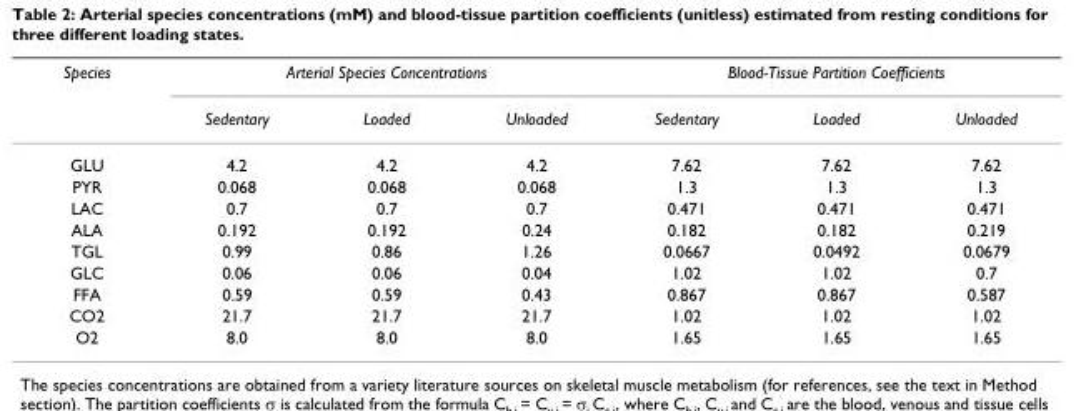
<table><thead><tr><td rowspan="2">Species</td><td colspan="3">Arterial Species Concentrations</td><td colspan="3">Blood-Tissue Partition Coefficients</td></tr><tr><td>Sedentary</td><td>Loaded</td><td>Unloaded</td><td>Sedentary</td><td>Loaded</td><td>Unloaded</td></tr></thead><tbody><tr><td>GLU</td><td>4.2</td><td>4.2</td><td>4.2</td><td>7.62</td><td>7.62</td><td>7.62</td></tr><tr><td>PYR</td><td>0.068</td><td>0.068</td><td>0.068</td><td>1.3</td><td>1.3</td><td>1.3</td></tr><tr><td>LAC</td><td>0.7</td><td>0.7</td><td>0.7</td><td>0.471</td><td>0.471</td><td>0.471</td></tr><tr><td>ALA</td><td>0.192</td><td>0.192</td><td>0.24</td><td>0.182</td><td>0.182</td><td>0.219</td></tr><tr><td>TGL</td><td>0.99</td><td>0.86</td><td>1.26</td><td>0.0667</td><td>0.0492</td><td>0.0679</td></tr><tr><td>GLC</td><td>0.06</td><td>0.06</td><td>0.04</td><td>1.02</td><td>1.02</td><td>0.7</td></tr><tr><td>FFA</td><td>0.59</td><td>0.59</td><td>0.43</td><td>0.867</td><td>0.867</td><td>0.587</td></tr><tr><td>CO2</td><td>21.7</td><td>21.7</td><td>21.7</td><td>1.02</td><td>1.02</td><td>1.02</td></tr><tr><td>O2</td><td>8.0</td><td>8.0</td><td>8.0</td><td>1.65</td><td>1.65</td><td>1.65</td></tr></tbody></table>